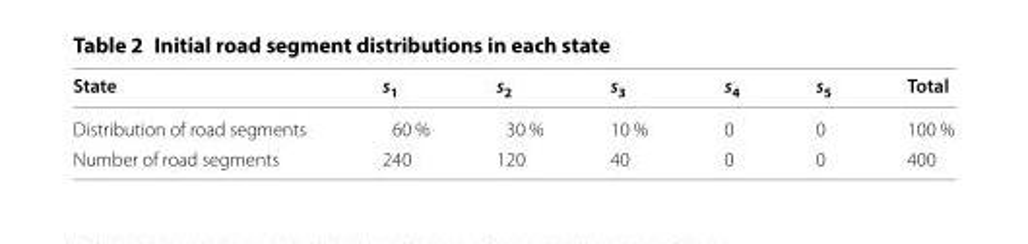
<table><thead><tr><td>State</td><td>s<sub>1</sub></td><td>s<sub>2</sub></td><td>s<sub>3</sub></td><td>s<sub>4</sub></td><td>s<sub>5</sub></td><td>Total</td></tr></thead><tbody><tr><td>Distribution of road segments</td><td>60 %</td><td>30 %</td><td>10 %</td><td>0</td><td>0</td><td>100 %</td></tr><tr><td>Number of road segments</td><td>240</td><td>120</td><td>40</td><td>0</td><td>0</td><td>400</td></tr></tbody></table>